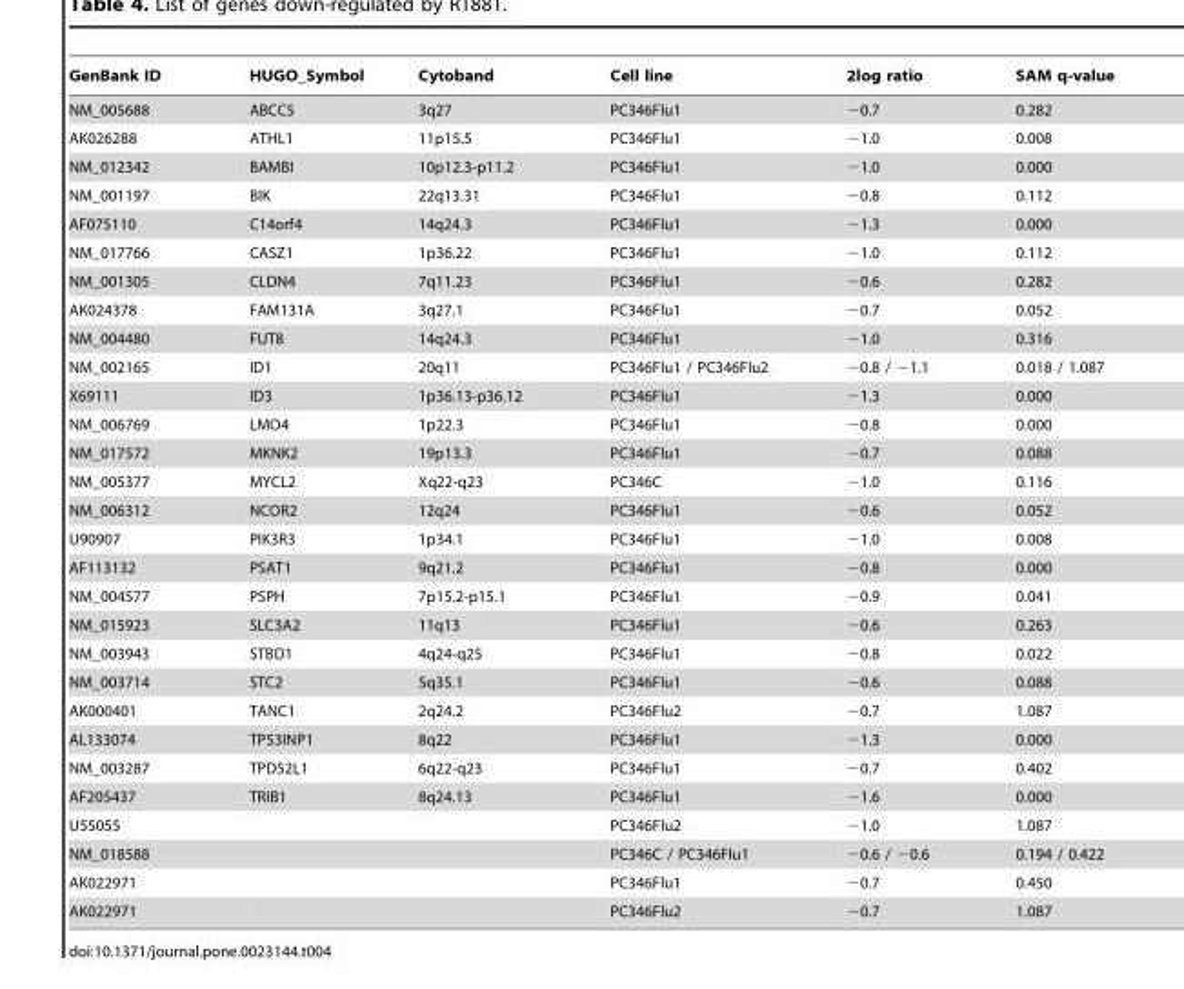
<table><thead><tr><td>GenBank ID</td><td>HUGO_Symbol</td><td>Cytoband</td><td>Cell line</td><td>2log ratio</td><td>SAM q-value</td></tr></thead><tbody><tr><td>NM_005688</td><td>ABCC5</td><td>3q27</td><td>PC346Flu1</td><td>−0.7</td><td>0.282</td></tr><tr><td>AK026288</td><td>ATHL1</td><td>11p15.5</td><td>PC346Flu1</td><td>−1.0</td><td>0.008</td></tr><tr><td>NM_012342</td><td>BAMBI</td><td>10p12.3-p11.2</td><td>PC346Flu1</td><td>−1.0</td><td>0.000</td></tr><tr><td>NM_001197</td><td>BIK</td><td>22q13.31</td><td>PC346Flu1</td><td>−0.8</td><td>0.112</td></tr><tr><td>AF075110</td><td>C14orf4</td><td>14q24.3</td><td>PC346Flu1</td><td>−1.3</td><td>0.000</td></tr><tr><td>NM_017766</td><td>CASZ1</td><td>1p36.22</td><td>PC346Flu1</td><td>−1.0</td><td>0.112</td></tr><tr><td>NM_001305</td><td>CLDN4</td><td>7q11.23</td><td>PC346Flu1</td><td>−0.6</td><td>0.282</td></tr><tr><td>AK024378</td><td>FAM131A</td><td>3q27.1</td><td>PC346Flu1</td><td>−0.7</td><td>0.052</td></tr><tr><td>NM_004480</td><td>FUT8</td><td>14q24.3</td><td>PC346Flu1</td><td>−1.0</td><td>0.316</td></tr><tr><td>NM_002165</td><td>ID1</td><td>20q11</td><td>PC346Flu1 / PC346Flu2</td><td>−0.8 / −1.1</td><td>0.018 / 1.087</td></tr><tr><td>X69111</td><td>ID3</td><td>1p36.13-p36.12</td><td>PC346Flu1</td><td>−1.3</td><td>0.000</td></tr><tr><td>NM_006769</td><td>LMO4</td><td>1p22.3</td><td>PC346Flu1</td><td>−0.8</td><td>0.000</td></tr><tr><td>NM_017572</td><td>MKNK2</td><td>19p13.3</td><td>PC346Flu1</td><td>−0.7</td><td>0.088</td></tr><tr><td>NM_005377</td><td>MYCL2</td><td>Xq22-q23</td><td>PC346C</td><td>−1.0</td><td>0.116</td></tr><tr><td>NM_006312</td><td>NCOR2</td><td>12q24</td><td>PC346Flu1</td><td>−0.6</td><td>0.052</td></tr><tr><td>U90907</td><td>PIK3R3</td><td>1p34.1</td><td>PC346Flu1</td><td>−1.0</td><td>0.008</td></tr><tr><td>AF113132</td><td>PSAT1</td><td>9q21.2</td><td>PC346Flu1</td><td>−0.8</td><td>0.000</td></tr><tr><td>NM_004577</td><td>PSPH</td><td>7p15.2-p15.1</td><td>PC346Flu1</td><td>−0.9</td><td>0.041</td></tr><tr><td>NM_015923</td><td>SLC3A2</td><td>11q13</td><td>PC346Flu1</td><td>−0.6</td><td>0.263</td></tr><tr><td>NM_003943</td><td>STBD1</td><td>4q24-q25</td><td>PC346Flu1</td><td>−0.8</td><td>0.022</td></tr><tr><td>NM_003714</td><td>STC2</td><td>5q35.1</td><td>PC346Flu1</td><td>−0.6</td><td>0.088</td></tr><tr><td>AK000401</td><td>TANC1</td><td>2q24.2</td><td>PC346Flu2</td><td>−0.7</td><td>1.087</td></tr><tr><td>AL133074</td><td>TP53INP1</td><td>8q22</td><td>PC346Flu1</td><td>−1.3</td><td>0.000</td></tr><tr><td>NM_003287</td><td>TPD52L1</td><td>6q22-q23</td><td>PC346Flu1</td><td>−0.7</td><td>0.402</td></tr><tr><td>AF205437</td><td>TRIB1</td><td>8q24.13</td><td>PC346Flu1</td><td>−1.6</td><td>0.000</td></tr><tr><td>U55055</td><td></td><td></td><td>PC346Flu2</td><td>−1.0</td><td>1.087</td></tr><tr><td>NM_018588</td><td></td><td></td><td>PC346C / PC346Flu1</td><td>−0.6 / −0.6</td><td>0.194 / 0.422</td></tr><tr><td>AK022971</td><td></td><td></td><td>PC346Flu1</td><td>−0.7</td><td>0.450</td></tr><tr><td>AK022971</td><td></td><td></td><td>PC346Flu2</td><td>−0.7</td><td>1.087</td></tr></tbody></table>